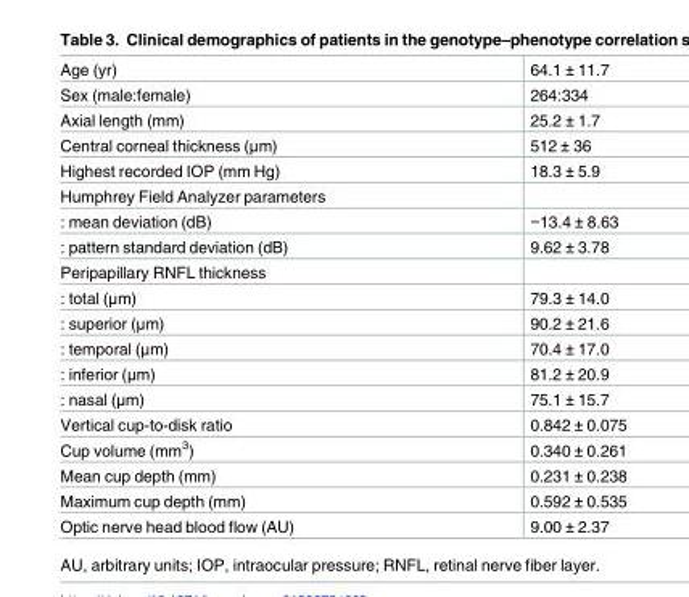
<table><tbody><tr><td>Age (yr)</td><td>64.1 ± 11.7</td></tr><tr><td>Sex (male:female)</td><td>264:334</td></tr><tr><td>Axial length (mm)</td><td>25.2 ± 1.7</td></tr><tr><td>Central corneal thickness (μm)</td><td>512 ± 36</td></tr><tr><td>Highest recorded IOP (mm Hg)</td><td>18.3 ± 5.9</td></tr><tr><td colspan="2">Humphrey Field Analyzer parameters</td></tr><tr><td>: mean deviation (dB)</td><td>−13.4 ± 8.63</td></tr><tr><td>: pattern standard deviation (dB)</td><td>9.62 ± 3.78</td></tr><tr><td colspan="2">Peripapillary RNFL thickness</td></tr><tr><td>: total (μm)</td><td>79.3 ± 14.0</td></tr><tr><td>: superior (μm)</td><td>90.2 ± 21.6</td></tr><tr><td>: temporal (μm)</td><td>70.4 ± 17.0</td></tr><tr><td>: inferior (μm)</td><td>81.2 ± 20.9</td></tr><tr><td>: nasal (μm)</td><td>75.1 ± 15.7</td></tr><tr><td>Vertical cup-to-disk ratio</td><td>0.842 ± 0.075</td></tr><tr><td>Cup volume (mm<sup>3</sup>)</td><td>0.340 ± 0.261</td></tr><tr><td>Mean cup depth (mm)</td><td>0.231 ± 0.238</td></tr><tr><td>Maximum cup depth (mm)</td><td>0.592 ± 0.535</td></tr><tr><td>Optic nerve head blood flow (AU)</td><td>9.00 ± 2.37</td></tr></tbody></table>